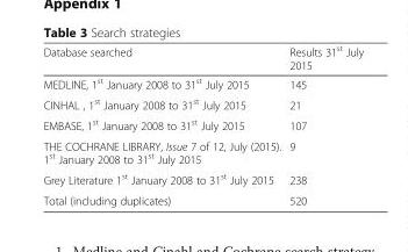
<table><thead><tr><td>Database searched</td><td>Results 31<sup>st</sup> July 2015</td></tr></thead><tbody><tr><td>MEDLINE, 1<sup>st</sup> January 2008 to 31<sup>st</sup> July 2015</td><td>145</td></tr><tr><td>CINHAL , 1<sup>st</sup> January 2008 to 31<sup>st</sup> July 2015</td><td>21</td></tr><tr><td>EMBASE, 1<sup>st</sup> January 2008 to 31<sup>st</sup> July 2015</td><td>107</td></tr><tr><td>THE COCHRANE LIBRARY, Issue 7 of 12, July (2015). 1<sup>st</sup> January 2008 to 31<sup>st</sup> July 2015</td><td>9</td></tr><tr><td>Grey Literature 1<sup>st</sup> January 2008 to 31<sup>st</sup> July 2015</td><td>238</td></tr><tr><td>Total (including duplicates)</td><td>520</td></tr></tbody></table>